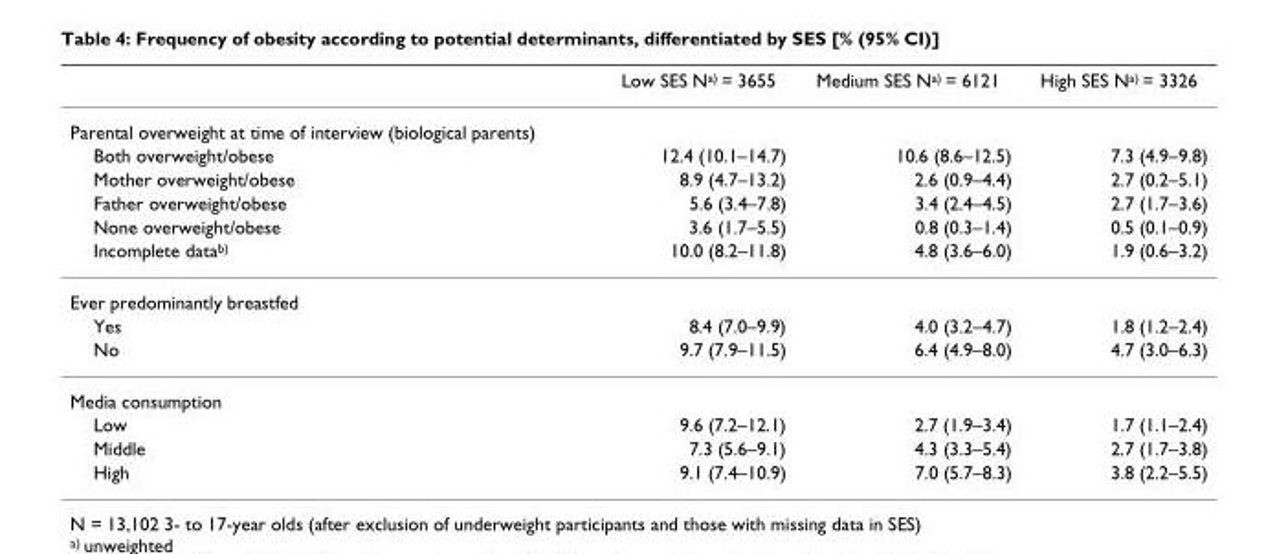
<table><thead><tr><td></td><td>Low SES N<sup>a)</sup> = 3655</td><td>Medium SES N<sup>a)</sup> = 6121</td><td>High SES N<sup>a)</sup> = 3326</td></tr></thead><tbody><tr><td colspan="4">Parental overweight at time of interview (biological parents)</td></tr><tr><td>Both overweight/obese</td><td>12.4 (10.1–14.7)</td><td>10.6 (8.6–12.5)</td><td>7.3 (4.9–9.8)</td></tr><tr><td>Mother overweight/obese</td><td>8.9 (4.7–13.2)</td><td>2.6 (0.9–4.4)</td><td>2.7 (0.2–5.1)</td></tr><tr><td>Father overweight/obese</td><td>5.6 (3.4–7.8)</td><td>3.4 (2.4–4.5)</td><td>2.7 (1.7–3.6)</td></tr><tr><td>None overweight/obese</td><td>3.6 (1.7–5.5)</td><td>0.8 (0.3–1.4)</td><td>0.5 (0.1–0.9)</td></tr><tr><td>Incomplete data<sup>b)</sup></td><td>10.0 (8.2–11.8)</td><td>4.8 (3.6–6.0)</td><td>1.9 (0.6–3.2)</td></tr><tr><td colspan="4">Ever predominantly breastfed</td></tr><tr><td>Yes</td><td>8.4 (7.0–9.9)</td><td>4.0 (3.2–4.7)</td><td>1.8 (1.2–2.4)</td></tr><tr><td>No</td><td>9.7 (7.9–11.5)</td><td>6.4 (4.9–8.0)</td><td>4.7 (3.0–6.3)</td></tr><tr><td colspan="4">Media consumption</td></tr><tr><td>Low</td><td>9.6 (7.2–12.1)</td><td>2.7 (1.9–3.4)</td><td>1.7 (1.1–2.4)</td></tr><tr><td>Middle</td><td>7.3 (5.6–9.1)</td><td>4.3 (3.3–5.4)</td><td>2.7 (1.7–3.8)</td></tr><tr><td>High</td><td>9.1 (7.4–10.9)</td><td>7.0 (5.7–8.3)</td><td>3.8 (2.2–5.5)</td></tr></tbody></table>